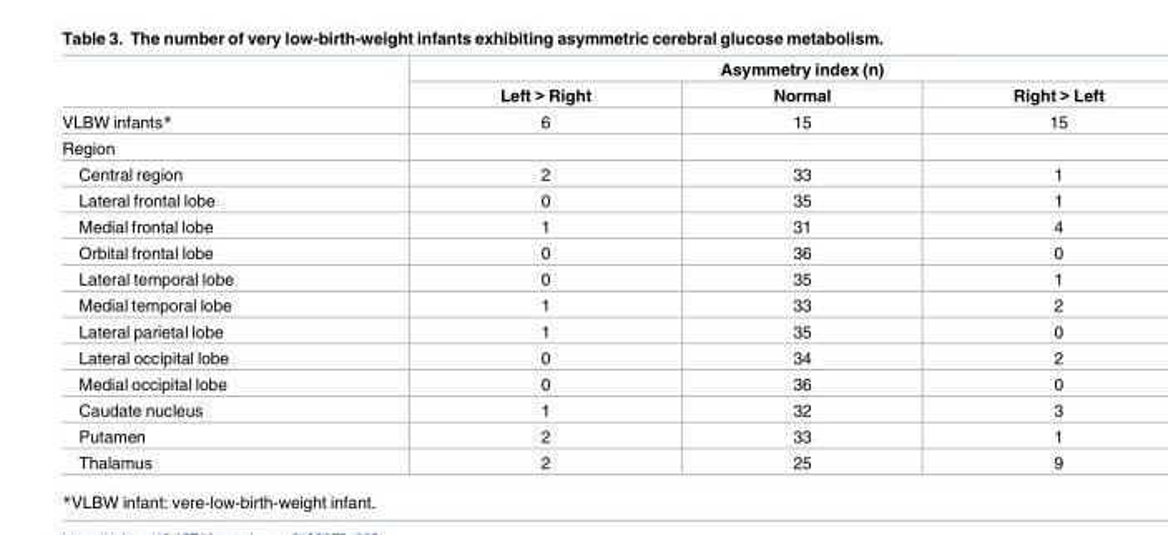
<table><thead><tr><td rowspan="2"></td><td colspan="3">Asymmetry index (n)</td></tr><tr><td>Left &gt; Right</td><td>Normal</td><td>Right &gt; Left</td></tr></thead><tbody><tr><td>VLBW infants*</td><td>6</td><td>15</td><td>15</td></tr><tr><td colspan="4">Region</td></tr><tr><td>Central region</td><td>2</td><td>33</td><td>1</td></tr><tr><td>Lateral frontal lobe</td><td>0</td><td>35</td><td>1</td></tr><tr><td>Medial frontal lobe</td><td>1</td><td>31</td><td>4</td></tr><tr><td>Orbital frontal lobe</td><td>0</td><td>36</td><td>0</td></tr><tr><td>Lateral temporal lobe</td><td>0</td><td>35</td><td>1</td></tr><tr><td>Medial temporal lobe</td><td>1</td><td>33</td><td>2</td></tr><tr><td>Lateral parietal lobe</td><td>1</td><td>35</td><td>0</td></tr><tr><td>Lateral occipital lobe</td><td>0</td><td>34</td><td>2</td></tr><tr><td>Medial occipital lobe</td><td>0</td><td>36</td><td>0</td></tr><tr><td>Caudate nucleus</td><td>1</td><td>32</td><td>3</td></tr><tr><td>Putamen</td><td>2</td><td>33</td><td>1</td></tr><tr><td>Thalamus</td><td>2</td><td>25</td><td>9</td></tr></tbody></table>